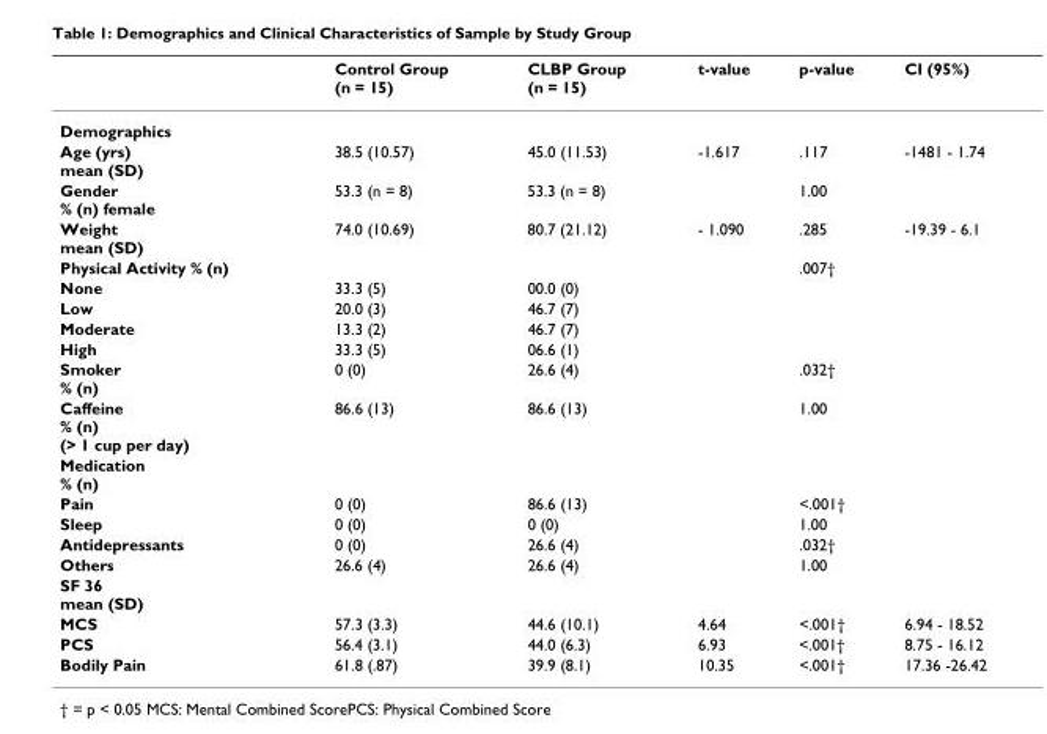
<table><thead><tr><td></td><td>Control Group (n = 15)</td><td>CLBP Group (n = 15)</td><td>t-value</td><td>p-value</td><td>CI (95%)</td></tr></thead><tbody><tr><td colspan="6">Demographics</td></tr><tr><td>Age (yrs) mean (SD)</td><td>38.5 (10.57)</td><td>45.0 (11.53)</td><td>-1.617</td><td>.117</td><td>-1481 - 1.74</td></tr><tr><td>Gender % (n) female</td><td>53.3 (n = 8)</td><td>53.3 (n = 8)</td><td></td><td>1.00</td><td></td></tr><tr><td>Weight mean (SD)</td><td>74.0 (10.69)</td><td>80.7 (21.12)</td><td>- 1.090</td><td>.285</td><td>-19.39 - 6.1</td></tr><tr><td>Physical Activity % (n)</td><td></td><td></td><td></td><td>.007†</td><td></td></tr><tr><td>None</td><td>33.3 (5)</td><td>00.0 (0)</td><td></td><td></td><td></td></tr><tr><td>Low</td><td>20.0 (3)</td><td>46.7 (7)</td><td></td><td></td><td></td></tr><tr><td>Moderate</td><td>13.3 (2)</td><td>46.7 (7)</td><td></td><td></td><td></td></tr><tr><td>High</td><td>33.3 (5)</td><td>06.6 (1)</td><td></td><td></td><td></td></tr><tr><td>Smoker % (n)</td><td>0 (0)</td><td>26.6 (4)</td><td></td><td>.032†</td><td></td></tr><tr><td>Caffeine % (n) (&gt; 1 cup per day)</td><td>86.6 (13)</td><td>86.6 (13)</td><td></td><td>1.00</td><td></td></tr><tr><td colspan="6">Medication % (n)</td></tr><tr><td>Pain</td><td>0 (0)</td><td>86.6 (13)</td><td></td><td>&lt;.001†</td><td></td></tr><tr><td>Sleep</td><td>0 (0)</td><td>0 (0)</td><td></td><td>1.00</td><td></td></tr><tr><td>Antidepressants</td><td>0 (0)</td><td>26.6 (4)</td><td></td><td>.032†</td><td></td></tr><tr><td>Others</td><td>26.6 (4)</td><td>26.6 (4)</td><td></td><td>1.00</td><td></td></tr><tr><td colspan="6">SF 36 mean (SD)</td></tr><tr><td>MCS</td><td>57.3 (3.3)</td><td>44.6 (10.1)</td><td>4.64</td><td>&lt;.001†</td><td>6.94 - 18.52</td></tr><tr><td>PCS</td><td>56.4 (3.1)</td><td>44.0 (6.3)</td><td>6.93</td><td>&lt;.001†</td><td>8.75 - 16.12</td></tr><tr><td>Bodily Pain</td><td>61.8 (.87)</td><td>39.9 (8.1)</td><td>10.35</td><td>&lt;.001†</td><td>17.36 -26.42</td></tr></tbody></table>